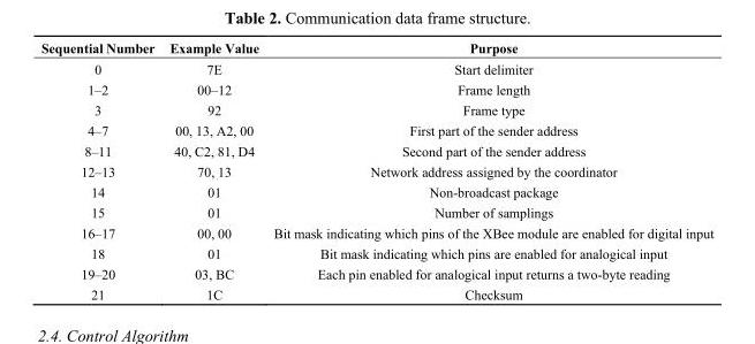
<table><thead><tr><td>Sequential Number</td><td>Example Value</td><td>Purpose</td></tr></thead><tbody><tr><td>0</td><td>7E</td><td>Start delimiter</td></tr><tr><td>1–2</td><td>00–12</td><td>Frame length</td></tr><tr><td>3</td><td>92</td><td>Frame type</td></tr><tr><td>4–7</td><td>00, 13, A2, 00</td><td>First part of the sender address</td></tr><tr><td>8–11</td><td>40, C2, 81, D4</td><td>Second part of the sender address</td></tr><tr><td>12–13</td><td>70, 13</td><td>Network address assigned by the coordinator</td></tr><tr><td>14</td><td>01</td><td>Non-broadcast package</td></tr><tr><td>15</td><td>01</td><td>Number of samplings</td></tr><tr><td>16–17</td><td>00, 00</td><td>Bit mask indicating which pins of the XBee module are enabled for digital input</td></tr><tr><td>18</td><td>01</td><td>Bit mask indicating which pins are enabled for analogical input</td></tr><tr><td>19–20</td><td>03, BC</td><td>Each pin enabled for analogical input returns a two-byte reading</td></tr><tr><td>21</td><td>1C</td><td>Checksum</td></tr></tbody></table>